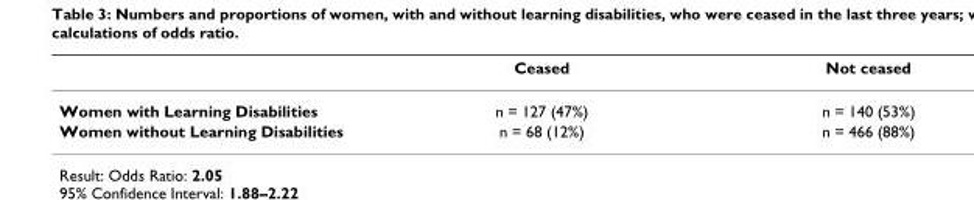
<table><thead><tr><td></td><td>Ceased</td><td>Not ceased</td></tr></thead><tbody><tr><td>Women with Learning Disabilities</td><td>n = 127 (47%)</td><td>n = 140 (53%)</td></tr><tr><td>Women without Learning Disabilities</td><td>n = 68 (12%)</td><td>n = 466 (88%)</td></tr></tbody></table>